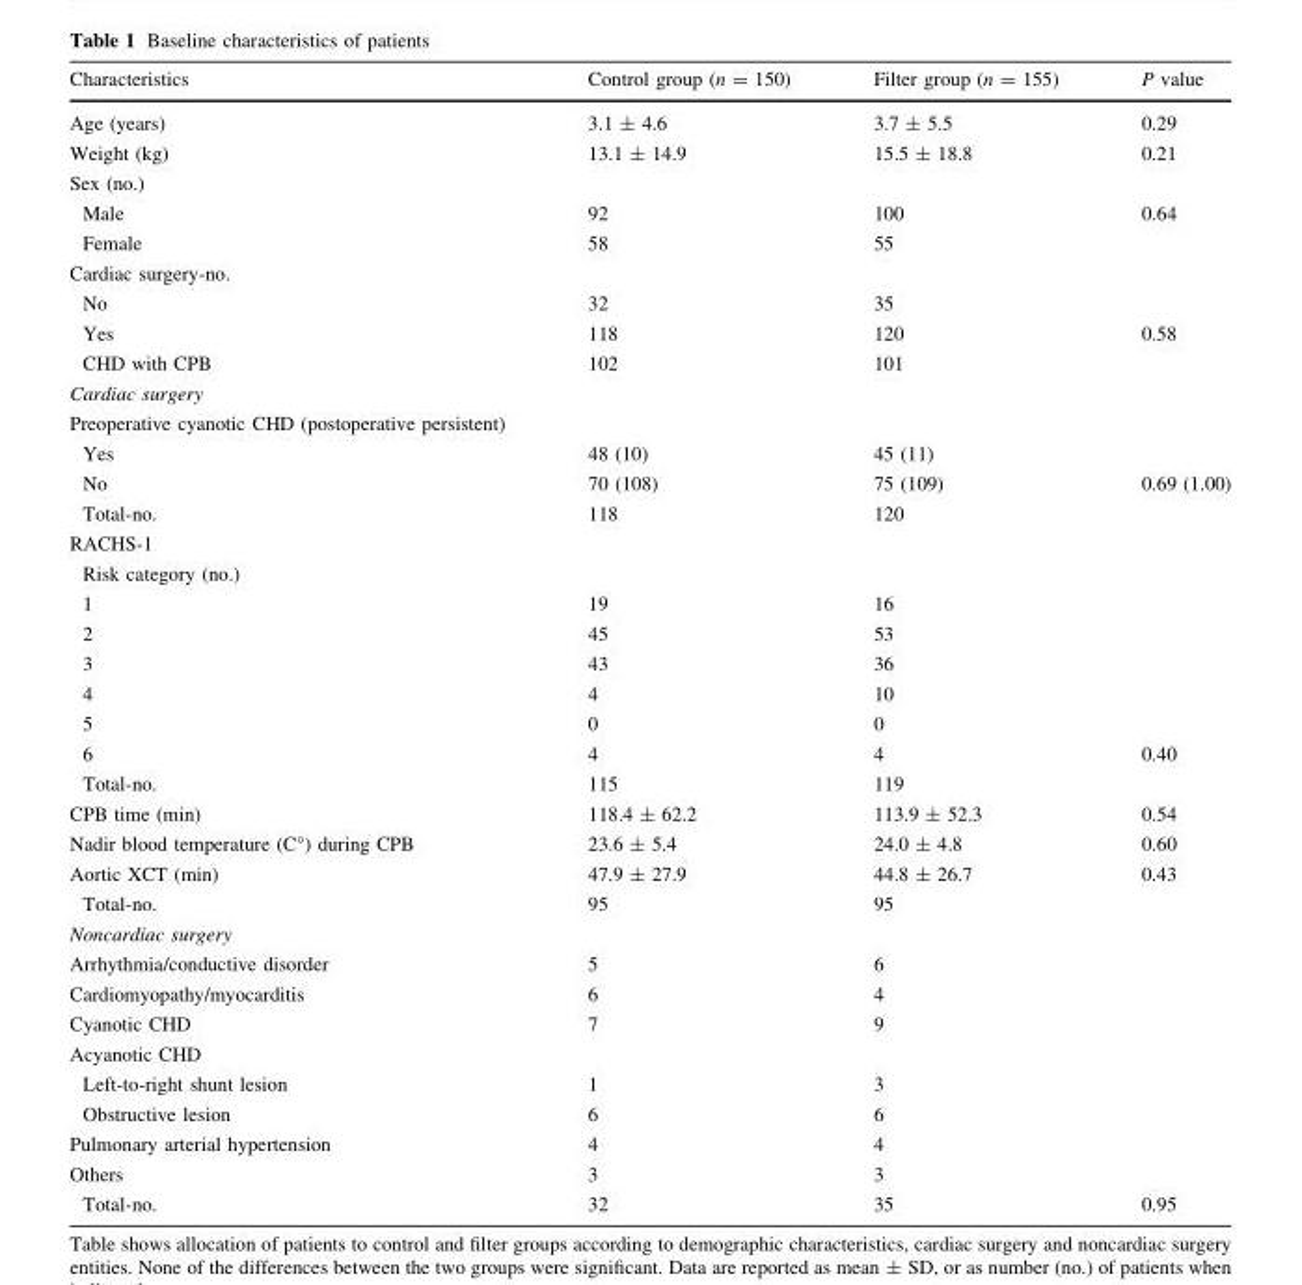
<table><thead><tr><td>Characteristics</td><td>Control group (n = 150)</td><td>Filter group (n = 155)</td><td>P value</td></tr></thead><tbody><tr><td>Age (years)</td><td>3.1 ± 4.6</td><td>3.7 ± 5.5</td><td>0.29</td></tr><tr><td>Weight (kg)</td><td>13.1 ± 14.9</td><td>15.5 ± 18.8</td><td>0.21</td></tr><tr><td colspan="4">Sex (no.)</td></tr><tr><td>Male</td><td>92</td><td>100</td><td>0.64</td></tr><tr><td>Female</td><td>58</td><td>55</td><td></td></tr><tr><td colspan="4">Cardiac surgery-no.</td></tr><tr><td>No</td><td>32</td><td>35</td><td></td></tr><tr><td>Yes</td><td>118</td><td>120</td><td>0.58</td></tr><tr><td>CHD with CPB</td><td>102</td><td>101</td><td></td></tr><tr><td colspan="4">Cardiac surgery</td></tr><tr><td colspan="4">Preoperative cyanotic CHD (postoperative persistent)</td></tr><tr><td>Yes</td><td>48 (10)</td><td>45 (11)</td><td></td></tr><tr><td>No</td><td>70 (108)</td><td>75 (109)</td><td>0.69 (1.00)</td></tr><tr><td>Total-no.</td><td>118</td><td>120</td><td></td></tr><tr><td colspan="4">RACHS-1</td></tr><tr><td colspan="4">Risk category (no.)</td></tr><tr><td>1</td><td>19</td><td>16</td><td></td></tr><tr><td>2</td><td>45</td><td>53</td><td></td></tr><tr><td>3</td><td>43</td><td>36</td><td></td></tr><tr><td>4</td><td>4</td><td>10</td><td></td></tr><tr><td>5</td><td>0</td><td>0</td><td></td></tr><tr><td>6</td><td>4</td><td>4</td><td>0.40</td></tr><tr><td>Total-no.</td><td>115</td><td>119</td><td></td></tr><tr><td>CPB time (min)</td><td>118.4 ± 62.2</td><td>113.9 ± 52.3</td><td>0.54</td></tr><tr><td>Nadir blood temperature (C°) during CPB</td><td>23.6 ± 5.4</td><td>24.0 ± 4.8</td><td>0.60</td></tr><tr><td>Aortic XCT (min)</td><td>47.9 ± 27.9</td><td>44.8 ± 26.7</td><td>0.43</td></tr><tr><td>Total-no.</td><td>95</td><td>95</td><td></td></tr><tr><td colspan="4">Noncardiac surgery</td></tr><tr><td>Arrhythmia/conductive disorder</td><td>5</td><td>6</td><td></td></tr><tr><td>Cardiomyopathy/myocarditis</td><td>6</td><td>4</td><td></td></tr><tr><td>Cyanotic CHD</td><td>7</td><td>9</td><td></td></tr><tr><td colspan="4">Acyanotic CHD</td></tr><tr><td>Left-to-right shunt lesion</td><td>1</td><td>3</td><td></td></tr><tr><td>Obstructive lesion</td><td>6</td><td>6</td><td></td></tr><tr><td>Pulmonary arterial hypertension</td><td>4</td><td>4</td><td></td></tr><tr><td>Others</td><td>3</td><td>3</td><td></td></tr><tr><td>Total-no.</td><td>32</td><td>35</td><td>0.95</td></tr></tbody></table>